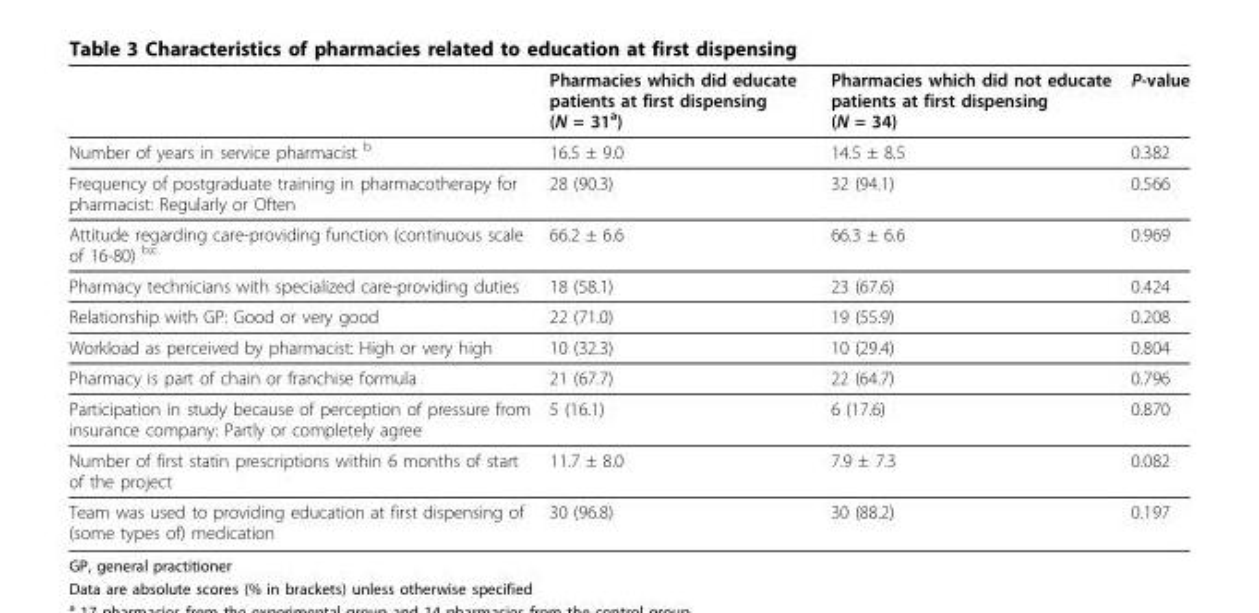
<table><thead><tr><td></td><td>Pharmacies which did educate patients at first dispensing (N = 31<sup>a</sup>)</td><td>Pharmacies which did not educate patients at first dispensing (N = 34)</td><td>P-value</td></tr></thead><tbody><tr><td>Number of years in service pharmacist <sup>b</sup></td><td>16.5 ± 9.0</td><td>14.5 ± 8.5</td><td>0.382</td></tr><tr><td>Frequency of postgraduate training in pharmacotherapy for pharmacist: Regularly or Often</td><td>28 (90.3)</td><td>32 (94.1)</td><td>0.566</td></tr><tr><td>Attitude regarding care-providing function (continuous scale of 16-80) <sup>b;c</sup></td><td>66.2 ± 6.6</td><td>66.3 ± 6.6</td><td>0.969</td></tr><tr><td>Pharmacy technicians with specialized care-providing duties</td><td>18 (58.1)</td><td>23 (67.6)</td><td>0.424</td></tr><tr><td>Relationship with GP: Good or very good</td><td>22 (71.0)</td><td>19 (55.9)</td><td>0.208</td></tr><tr><td>Workload as perceived by pharmacist: High or very high</td><td>10 (32.3)</td><td>10 (29.4)</td><td>0.804</td></tr><tr><td>Pharmacy is part of chain or franchise formula</td><td>21 (67.7)</td><td>22 (64.7)</td><td>0.796</td></tr><tr><td>Participation in study because of perception of pressure from insurance company: Partly or completely agree</td><td>5 (16.1)</td><td>6 (17.6)</td><td>0.870</td></tr><tr><td>Number of first statin prescriptions within 6 months of start of the project</td><td>11.7 ± 8.0</td><td>7.9 ± 7.3</td><td>0.082</td></tr><tr><td>Team was used to providing education at first dispensing of (some types of) medication</td><td>30 (96.8)</td><td>30 (88.2)</td><td>0.197</td></tr></tbody></table>